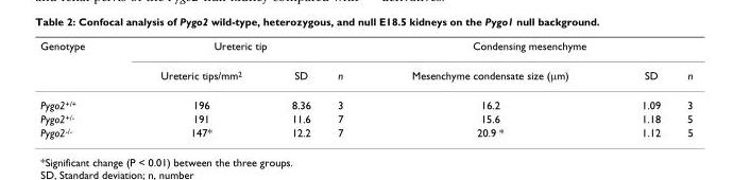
<table><thead><tr><td rowspan="2">Genotype</td><td colspan="3">Ureteric tip</td><td colspan="3">Condensing mesenchyme</td></tr><tr><td>Ureteric tips/mm<sup>2</sup></td><td>SD</td><td>n</td><td>Mesenchyme condensate size (μm)</td><td>SD</td><td>n</td></tr></thead><tbody><tr><td>Pygo2<sup>+/+</sup></td><td>196</td><td>8.36</td><td>3</td><td>16.2</td><td>1.09</td><td>3</td></tr><tr><td>Pygo2<sup>+/-</sup></td><td>191</td><td>11.6</td><td>7</td><td>15.6</td><td>1.18</td><td>5</td></tr><tr><td>Pygo2<sup>-/-</sup></td><td>147*</td><td>12.2</td><td>7</td><td>20.9 *</td><td>1.12</td><td>5</td></tr></tbody></table>